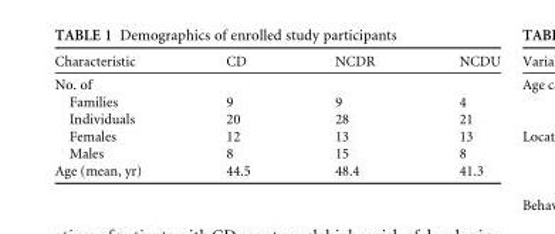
<table><thead><tr><td>Characteristic</td><td>CD</td><td>NCDR</td><td>NCDU</td></tr></thead><tbody><tr><td colspan="4">No. of</td></tr><tr><td>Families</td><td>9</td><td>9</td><td>4</td></tr><tr><td>Individuals</td><td>20</td><td>28</td><td>21</td></tr><tr><td>Females</td><td>12</td><td>13</td><td>13</td></tr><tr><td>Males</td><td>8</td><td>15</td><td>8</td></tr><tr><td>Age (mean, yr)</td><td>44.5</td><td>48.4</td><td>41.3</td></tr></tbody></table>